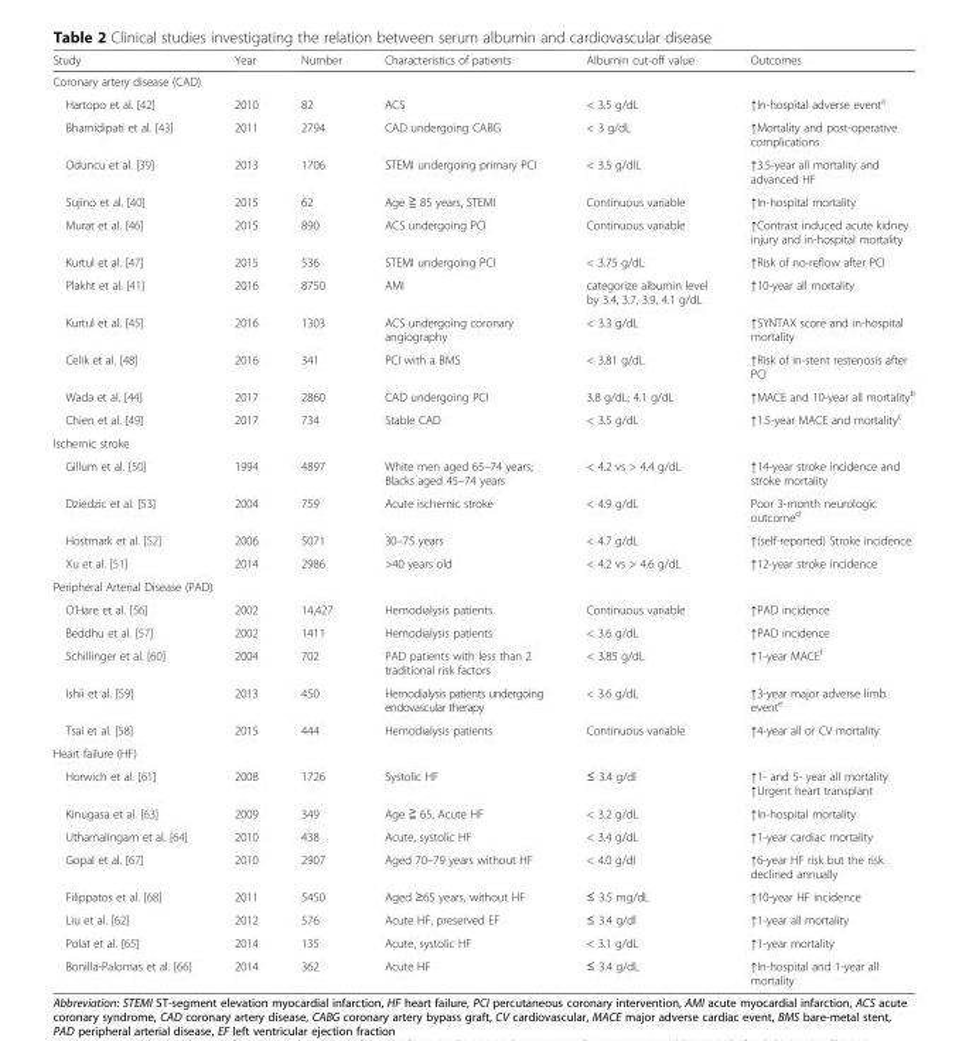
<table><thead><tr><td>Study</td><td>Year</td><td>Number</td><td>Characteristics of patients</td><td>Albumin cut-off value</td><td>Outcomes</td></tr></thead><tbody><tr><td colspan="6">Coronary artery disease (CAD)</td></tr><tr><td>Hartopo et al. [42]</td><td>2010</td><td>82</td><td>ACS</td><td>&lt; 3.5 g/dL</td><td>↑In-hospital adverse event<sup>a</sup></td></tr><tr><td>Bhamidipati et al. [43]</td><td>2011</td><td>2794</td><td>CAD undergoing CABG</td><td>&lt; 3 g/dL</td><td>↑Mortality and post-operative complications</td></tr><tr><td>Oduncu et al. [39]</td><td>2013</td><td>1706</td><td>STEMI undergoing primary PCI</td><td>&lt; 3.5 g/dlL</td><td>↑3.5-year all mortality and advanced HF</td></tr><tr><td>Sujino et al. [40]</td><td>2015</td><td>62</td><td>Age ≧ 85 years, STEMI</td><td>Continuous variable</td><td>↑In-hospital mortality</td></tr><tr><td>Murat et al. [46]</td><td>2015</td><td>890</td><td>ACS undergoing PCI</td><td>Continuous variable</td><td>↑Contrast induced acute kidney injury and in-hospital mortality</td></tr><tr><td>Kurtul et al. [47]</td><td>2015</td><td>536</td><td>STEMI undergoing PCI</td><td>&lt; 3.75 g/dL</td><td>↑Risk of no-reflow after PCI</td></tr><tr><td>Plakht et al. [41]</td><td>2016</td><td>8750</td><td>AMI</td><td>categorize albumin level by 3.4, 3.7, 3.9, 4.1 g/dL</td><td>↑10-year all mortality</td></tr><tr><td>Kurtul et al. [45]</td><td>2016</td><td>1303</td><td>ACS undergoing coronary angiography</td><td>&lt; 3.3 g/dL</td><td>↑SYNTAX score and in-hospital mortality</td></tr><tr><td>Celik et al. [48]</td><td>2016</td><td>341</td><td>PCI with a BMS</td><td>&lt; 3.81 g/dL</td><td>↑Risk of in-stent restenosis after PCI</td></tr><tr><td>Wada et al. [44]</td><td>2017</td><td>2860</td><td>CAD undergoing PCI</td><td>3.8 g/dL; 4.1 g/dL</td><td>↑MACE and 10-year all mortality<sup>b</sup></td></tr><tr><td>Chien et al. [49]</td><td>2017</td><td>734</td><td>Stable CAD</td><td>&lt; 3.5 g/dL</td><td>↑1.5-year MACE and mortality<sup>c</sup></td></tr><tr><td colspan="6">Ischemic stroke</td></tr><tr><td>Gillum et al. [50]</td><td>1994</td><td>4897</td><td>White men aged 65–74 years; Blacks aged 45–74 years</td><td>&lt; 4.2 vs &gt; 4.4 g/dL</td><td>↑14-year stroke incidence and stroke mortality</td></tr><tr><td>Dziedzic et al. [53]</td><td>2004</td><td>759</td><td>Acute ischemic stroke</td><td>&lt; 4.9 g/dL</td><td>Poor 3-month neurologic outcome<sup>d</sup></td></tr><tr><td>Hostmark et al. [52]</td><td>2006</td><td>5071</td><td>30–75 years</td><td>&lt; 4.7 g/dL</td><td>↑(self-reported) Stroke incidence</td></tr><tr><td>Xu et al. [51]</td><td>2014</td><td>2986</td><td>&gt;40 years old</td><td>&lt; 4.2 vs &gt; 4.6 g/dL</td><td>↑12-year stroke incidence</td></tr><tr><td colspan="6">Peripheral Arterial Disease (PAD)</td></tr><tr><td>O’Hare et al. [56]</td><td>2002</td><td>14,427</td><td>Hemodialysis patients</td><td>Continuous variable</td><td>↑PAD incidence</td></tr><tr><td>Beddhu et al. [57]</td><td>2002</td><td>1411</td><td>Hemodialysis patients</td><td>&lt; 3.6 g/dL</td><td>↑PAD incidence</td></tr><tr><td>Schillinger et al. [60]</td><td>2004</td><td>702</td><td>PAD patients with less than 2 traditional risk factors</td><td>&lt; 3.85 g/dL</td><td>↑1-year MACE<sup>f</sup></td></tr><tr><td>Ishii et al. [59]</td><td>2013</td><td>450</td><td>Hemodialysis patients undergoing endovascular therapy</td><td>&lt; 3.6 g/dL</td><td>↑3-year major adverse limb event<sup>e</sup></td></tr><tr><td>Tsai et al. [58]</td><td>2015</td><td>444</td><td>Hemodialysis patients</td><td>Continuous variable</td><td>↑4-year all or CV mortality</td></tr><tr><td colspan="6">Heart failure (HF)</td></tr><tr><td>Horwich et al. [61]</td><td>2008</td><td>1726</td><td>Systolic HF</td><td>≤ 3.4 g/dl</td><td>↑1- and 5- year all mortality ↑Urgent heart transplant</td></tr><tr><td>Kinugasa et al. [63]</td><td>2009</td><td>349</td><td>Age ≧ 65, Acute HF</td><td>&lt; 3.2 g/dL</td><td>↑In-hospital mortality</td></tr><tr><td>Uthamalingam et al. [64]</td><td>2010</td><td>438</td><td>Acute, systolic HF</td><td>&lt; 3.4 g/dL</td><td>↑1-year cardiac mortality</td></tr><tr><td>Gopal et al. [67]</td><td>2010</td><td>2907</td><td>Aged 70–79 years without HF</td><td>&lt; 4.0 g/dl</td><td>↑6-year HF risk but the risk declined annually</td></tr><tr><td>Filippatos et al. [68]</td><td>2011</td><td>5450</td><td>Aged ≥65 years, without HF</td><td>≤ 3.5 mg/dL</td><td>↑10-year HF incidence</td></tr><tr><td>Liu et al. [62]</td><td>2012</td><td>576</td><td>Acute HF, preserved EF</td><td>≤ 3.4 g/dl</td><td>↑1-year all mortality</td></tr><tr><td>Polat et al. [65]</td><td>2014</td><td>135</td><td>Acute, systolic HF</td><td>&lt; 3.1 g/dL</td><td>↑1-year mortality</td></tr><tr><td>Bonilla-Palomas et al. [66]</td><td>2014</td><td>362</td><td>Acute HF</td><td>≤ 3.4 g/dL</td><td>↑In-hospital and 1-year all mortality</td></tr></tbody></table>